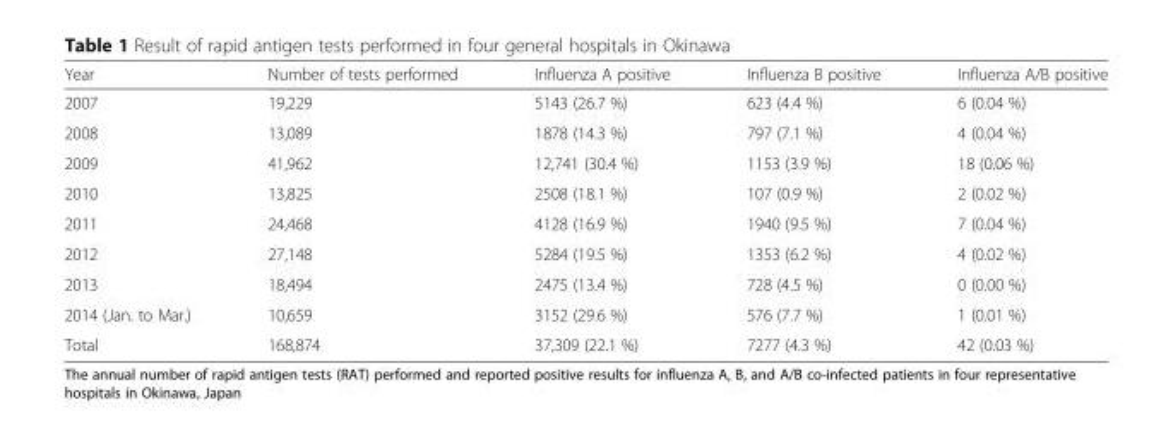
<table><thead><tr><td>Year</td><td>Number of tests performed</td><td>Influenza A positive</td><td>Influenza B positive</td><td>Influenza A/B positive</td></tr></thead><tbody><tr><td>2007</td><td>19,229</td><td>5143 (26.7 %)</td><td>623 (4.4 %)</td><td>6 (0.04 %)</td></tr><tr><td>2008</td><td>13,089</td><td>1878 (14.3 %)</td><td>797 (7.1 %)</td><td>4 (0.04 %)</td></tr><tr><td>2009</td><td>41,962</td><td>12,741 (30.4 %)</td><td>1153 (3.9 %)</td><td>18 (0.06 %)</td></tr><tr><td>2010</td><td>13,825</td><td>2508 (18.1 %)</td><td>107 (0.9 %)</td><td>2 (0.02 %)</td></tr><tr><td>2011</td><td>24,468</td><td>4128 (16.9 %)</td><td>1940 (9.5 %)</td><td>7 (0.04 %)</td></tr><tr><td>2012</td><td>27,148</td><td>5284 (19.5 %)</td><td>1353 (6.2 %)</td><td>4 (0.02 %)</td></tr><tr><td>2013</td><td>18,494</td><td>2475 (13.4 %)</td><td>728 (4.5 %)</td><td>0 (0.00 %)</td></tr><tr><td>2014 (Jan. to Mar.)</td><td>10,659</td><td>3152 (29.6 %)</td><td>576 (7.7 %)</td><td>1 (0.01 %)</td></tr><tr><td>Total</td><td>168,874</td><td>37,309 (22.1 %)</td><td>7277 (4.3 %)</td><td>42 (0.03 %)</td></tr></tbody></table>